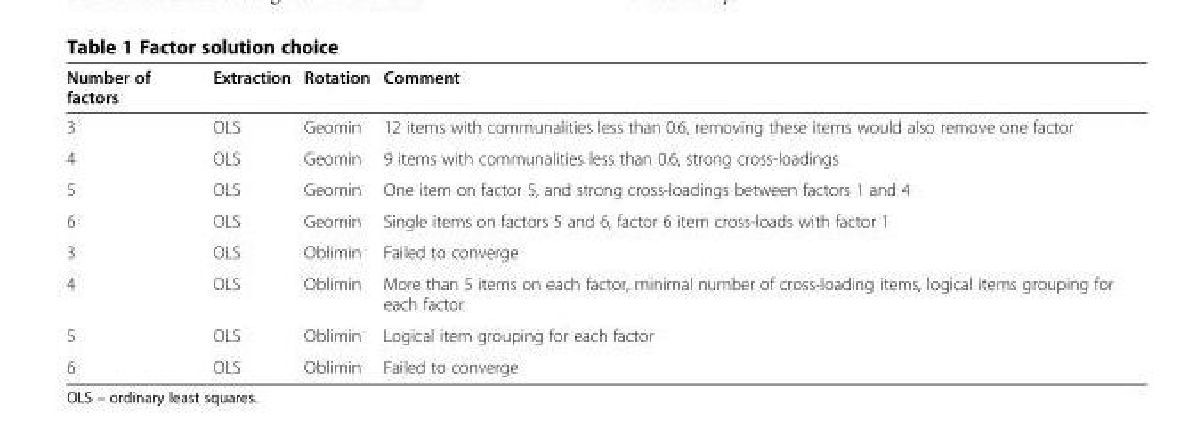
<table><thead><tr><td>Number of factors</td><td>Extraction</td><td>Rotation</td><td>Comment</td></tr></thead><tbody><tr><td>3</td><td>OLS</td><td>Geomin</td><td>12 items with communalities less than 0.6, removing these items would also remove one factor</td></tr><tr><td>4</td><td>OLS</td><td>Geomin</td><td>9 items with communalities less than 0.6, strong cross-loadings</td></tr><tr><td>5</td><td>OLS</td><td>Geomin</td><td>One item on factor 5, and strong cross-loadings between factors 1 and 4</td></tr><tr><td>6</td><td>OLS</td><td>Geomin</td><td>Single items on factors 5 and 6, factor 6 item cross-loads with factor 1</td></tr><tr><td>3</td><td>OLS</td><td>Oblimin</td><td>Failed to converge</td></tr><tr><td>4</td><td>OLS</td><td>Oblimin</td><td>More than 5 items on each factor, minimal number of cross-loading items, logical items grouping for each factor</td></tr><tr><td>5</td><td>OLS</td><td>Oblimin</td><td>Logical item grouping for each factor</td></tr><tr><td>6</td><td>OLS</td><td>Oblimin</td><td>Failed to converge</td></tr></tbody></table>